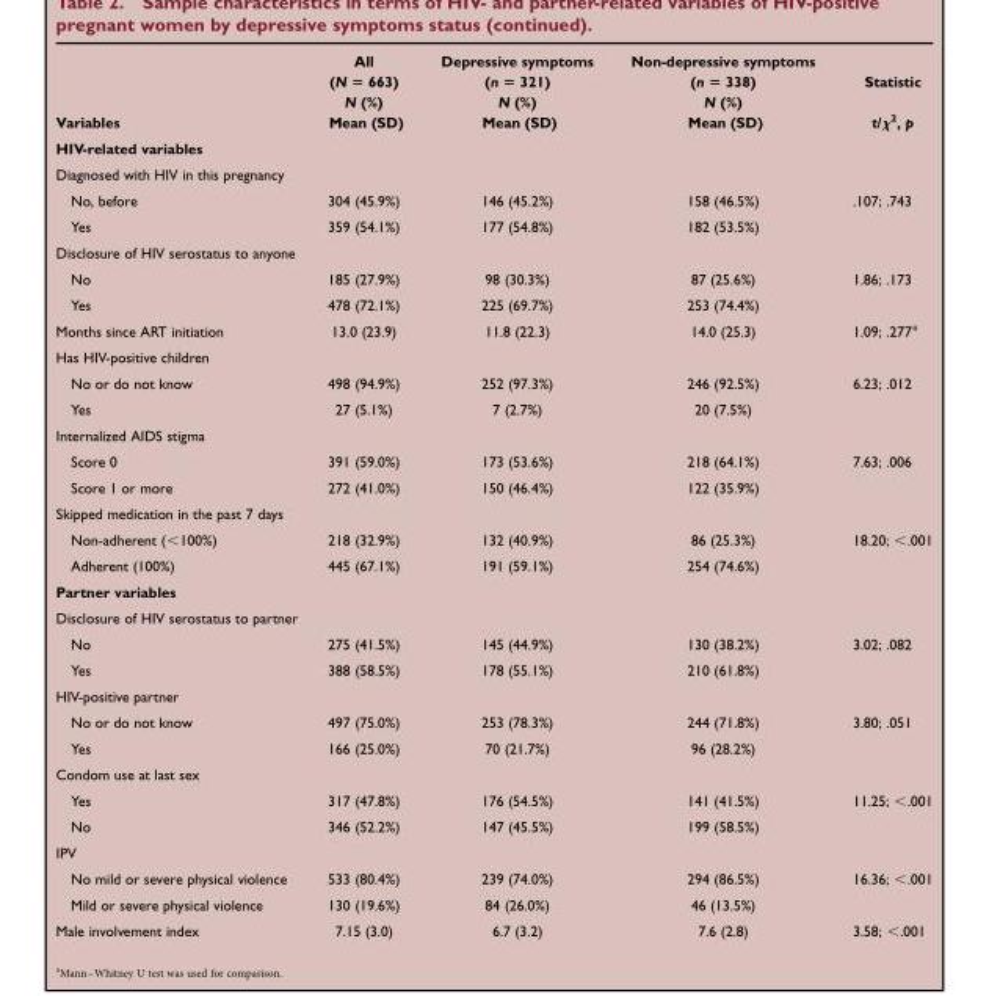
<table><thead><tr><td rowspan="2">Variables</td><td rowspan="2">All (N = 663) N (%) Mean (SD)</td><td rowspan="2">Depressive symptoms (n = 321) N (%) Mean (SD)</td><td rowspan="2">Non-depressive symptoms (n = 338) N (%) Mean (SD)</td><td rowspan="2">Statistic t/χ<sup>2</sup>, p</td></tr><tr></tr></thead><tbody><tr><td colspan="5">HIV-related variables</td></tr><tr><td colspan="5">Diagnosed with HIV in this pregnancy</td></tr><tr><td>No, before</td><td>304 (45.9%)</td><td>146 (45.2%)</td><td>158 (46.5%)</td><td>.107; .743</td></tr><tr><td>Yes</td><td>359 (54.1%)</td><td>177 (54.8%)</td><td>182 (53.5%)</td><td></td></tr><tr><td colspan="5">Disclosure of HIV serostatus to anyone</td></tr><tr><td>No</td><td>185 (27.9%)</td><td>98 (30.3%)</td><td>87 (25.6%)</td><td>1.86; .173</td></tr><tr><td>Yes</td><td>478 (72.1%)</td><td>225 (69.7%)</td><td>253 (74.4%)</td><td></td></tr><tr><td>Months since ART initiation</td><td>13.0 (23.9)</td><td>11.8 (22.3)</td><td>14.0 (25.3)</td><td>1.09; .277<sup>a</sup></td></tr><tr><td colspan="5">Has HIV-positive children</td></tr><tr><td>No or do not know</td><td>498 (94.9%)</td><td>252 (97.3%)</td><td>246 (92.5%)</td><td>6.23; .012</td></tr><tr><td>Yes</td><td>27 (5.1%)</td><td>7 (2.7%)</td><td>20 (7.5%)</td><td></td></tr><tr><td colspan="5">Internalized AIDS stigma</td></tr><tr><td>Score 0</td><td>391 (59.0%)</td><td>173 (53.6%)</td><td>218 (64.1%)</td><td>7.63; .006</td></tr><tr><td>Score 1 or more</td><td>272 (41.0%)</td><td>150 (46.4%)</td><td>122 (35.9%)</td><td></td></tr><tr><td colspan="5">Skipped medication in the past 7 days</td></tr><tr><td>Non-adherent (&lt;100%)</td><td>218 (32.9%)</td><td>132 (40.9%)</td><td>86 (25.3%)</td><td>18.20; &lt;.001</td></tr><tr><td>Adherent (100%)</td><td>445 (67.1%)</td><td>191 (59.1%)</td><td>254 (74.6%)</td><td></td></tr><tr><td colspan="5">Partner variables</td></tr><tr><td colspan="5">Disclosure of HIV serostatus to partner</td></tr><tr><td>No</td><td>275 (41.5%)</td><td>145 (44.9%)</td><td>130 (38.2%)</td><td>3.02; .082</td></tr><tr><td>Yes</td><td>388 (58.5%)</td><td>178 (55.1%)</td><td>210 (61.8%)</td><td></td></tr><tr><td colspan="5">HIV-positive partner</td></tr><tr><td>No or do not know</td><td>497 (75.0%)</td><td>253 (78.3%)</td><td>244 (71.8%)</td><td>3.80; .051</td></tr><tr><td>Yes</td><td>166 (25.0%)</td><td>70 (21.7%)</td><td>96 (28.2%)</td><td></td></tr><tr><td colspan="5">Condom use at last sex</td></tr><tr><td>Yes</td><td>317 (47.8%)</td><td>176 (54.5%)</td><td>141 (41.5%)</td><td>11.25; &lt;.001</td></tr><tr><td>No</td><td>346 (52.2%)</td><td>147 (45.5%)</td><td>199 (58.5%)</td><td></td></tr><tr><td colspan="5">IPV</td></tr><tr><td>No mild or severe physical violence</td><td>533 (80.4%)</td><td>239 (74.0%)</td><td>294 (86.5%)</td><td>16.36; &lt;.001</td></tr><tr><td>Mild or severe physical violence</td><td>130 (19.6%)</td><td>84 (26.0%)</td><td>46 (13.5%)</td><td></td></tr><tr><td>Male involvement index</td><td>7.15 (3.0)</td><td>6.7 (3.2)</td><td>7.6 (2.8)</td><td>3.58; &lt;.001</td></tr></tbody></table>